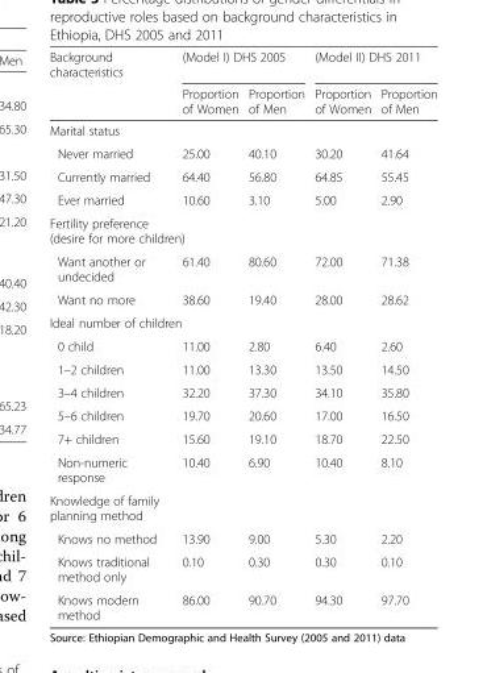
<table><thead><tr><td rowspan="2">Background characteristics</td><td colspan="2">(Model I) DHS 2005</td><td colspan="2">(Model II) DHS 2011</td></tr><tr><td>Proportion of Women</td><td>Proportion of Men</td><td>Proportion of Women</td><td>Proportion of Men</td></tr></thead><tbody><tr><td colspan="5">Marital status</td></tr><tr><td>Never married</td><td>25.00</td><td>40.10</td><td>30.20</td><td>41.64</td></tr><tr><td>Currently married</td><td>64.40</td><td>56.80</td><td>64.85</td><td>55.45</td></tr><tr><td>Ever married</td><td>10.60</td><td>3.10</td><td>5.00</td><td>2.90</td></tr><tr><td colspan="5">Fertility preference (desire for more children)</td></tr><tr><td>Want another or undecided</td><td>61.40</td><td>80.60</td><td>72.00</td><td>71.38</td></tr><tr><td>Want no more</td><td>38.60</td><td>19.40</td><td>28.00</td><td>28.62</td></tr><tr><td colspan="5">Ideal number of children</td></tr><tr><td>0 child</td><td>11.00</td><td>2.80</td><td>6.40</td><td>2.60</td></tr><tr><td>1–2 children</td><td>11.00</td><td>13.30</td><td>13.50</td><td>14.50</td></tr><tr><td>3–4 children</td><td>32.20</td><td>37.30</td><td>34.10</td><td>35.80</td></tr><tr><td>5–6 children</td><td>19.70</td><td>20.60</td><td>17.00</td><td>16.50</td></tr><tr><td>7+ children</td><td>15.60</td><td>19.10</td><td>18.70</td><td>22.50</td></tr><tr><td>Non-numeric response</td><td>10.40</td><td>6.90</td><td>10.40</td><td>8.10</td></tr><tr><td colspan="5">Knowledge of family planning method</td></tr><tr><td>Knows no method</td><td>13.90</td><td>9.00</td><td>5.30</td><td>2.20</td></tr><tr><td>Knows traditional method only</td><td>0.10</td><td>0.30</td><td>0.30</td><td>0.10</td></tr><tr><td>Knows modern method</td><td>86.00</td><td>90.70</td><td>94.30</td><td>97.70</td></tr></tbody></table>